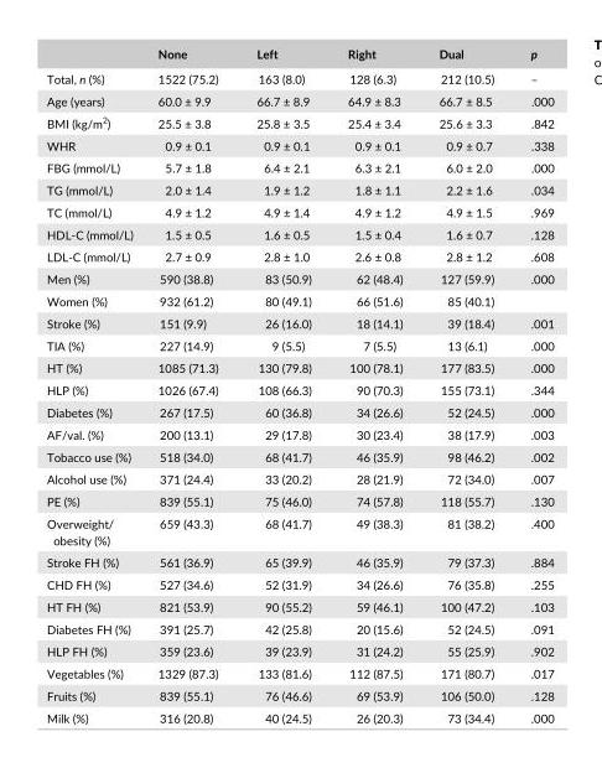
<table><thead><tr><td></td><td>None</td><td>Left</td><td>Right</td><td>Dual</td><td>p</td></tr></thead><tbody><tr><td>Total, n (%)</td><td>1522 (75.2)</td><td>163 (8.0)</td><td>128 (6.3)</td><td>212 (10.5)</td><td>–</td></tr><tr><td>Age (years)</td><td>60.0 ± 9.9</td><td>66.7 ± 8.9</td><td>64.9 ± 8.3</td><td>66.7 ± 8.5</td><td>.000</td></tr><tr><td>BMI (kg/m<sup>2</sup>)</td><td>25.5 ± 3.8</td><td>25.8 ± 3.5</td><td>25.4 ± 3.4</td><td>25.6 ± 3.3</td><td>.842</td></tr><tr><td>WHR</td><td>0.9 ± 0.1</td><td>0.9 ± 0.1</td><td>0.9 ± 0.1</td><td>0.9 ± 0.7</td><td>.338</td></tr><tr><td>FBG (mmol/L)</td><td>5.7 ± 1.8</td><td>6.4 ± 2.1</td><td>6.3 ± 2.1</td><td>6.0 ± 2.0</td><td>.000</td></tr><tr><td>TG (mmol/L)</td><td>2.0 ± 1.4</td><td>1.9 ± 1.2</td><td>1.8 ± 1.1</td><td>2.2 ± 1.6</td><td>.034</td></tr><tr><td>TC (mmol/L)</td><td>4.9 ± 1.2</td><td>4.9 ± 1.4</td><td>4.9 ± 1.2</td><td>4.9 ± 1.5</td><td>.969</td></tr><tr><td>HDL- C (mmol/L)</td><td>1.5 ± 0.5</td><td>1.6 ± 0.5</td><td>1.5 ± 0.4</td><td>1.6 ± 0.7</td><td>.128</td></tr><tr><td>LDL- C (mmol/L)</td><td>2.7 ± 0.9</td><td>2.8 ± 1.0</td><td>2.6 ± 0.8</td><td>2.8 ± 1.2</td><td>.608</td></tr><tr><td>Men (%)</td><td>590 (38.8)</td><td>83 (50.9)</td><td>62 (48.4)</td><td>127 (59.9)</td><td>.000</td></tr><tr><td>Women (%)</td><td>932 (61.2)</td><td>80 (49.1)</td><td>66 (51.6)</td><td>85 (40.1)</td><td></td></tr><tr><td>Stroke (%)</td><td>151 (9.9)</td><td>26 (16.0)</td><td>18 (14.1)</td><td>39 (18.4)</td><td>.001</td></tr><tr><td>TIA (%)</td><td>227 (14.9)</td><td>9 (5.5)</td><td>7 (5.5)</td><td>13 (6.1)</td><td>.000</td></tr><tr><td>HT (%)</td><td>1085 (71.3)</td><td>130 (79.8)</td><td>100 (78.1)</td><td>177 (83.5)</td><td>.000</td></tr><tr><td>HLP (%)</td><td>1026 (67.4)</td><td>108 (66.3)</td><td>90 (70.3)</td><td>155 (73.1)</td><td>.344</td></tr><tr><td>Diabetes (%)</td><td>267 (17.5)</td><td>60 (36.8)</td><td>34 (26.6)</td><td>52 (24.5)</td><td>.000</td></tr><tr><td>AF/val. (%)</td><td>200 (13.1)</td><td>29 (17.8)</td><td>30 (23.4)</td><td>38 (17.9)</td><td>.003</td></tr><tr><td>Tobacco use (%)</td><td>518 (34.0)</td><td>68 (41.7)</td><td>46 (35.9)</td><td>98 (46.2)</td><td>.002</td></tr><tr><td>Alcohol use (%)</td><td>371 (24.4)</td><td>33 (20.2)</td><td>28 (21.9)</td><td>72 (34.0)</td><td>.007</td></tr><tr><td>PE (%)</td><td>839 (55.1)</td><td>75 (46.0)</td><td>74 (57.8)</td><td>118 (55.7)</td><td>.130</td></tr><tr><td>Overweight/ obesity (%)</td><td>659 (43.3)</td><td>68 (41.7)</td><td>49 (38.3)</td><td>81 (38.2)</td><td>.400</td></tr><tr><td>Stroke FH (%)</td><td>561 (36.9)</td><td>65 (39.9)</td><td>46 (35.9)</td><td>79 (37.3)</td><td>.884</td></tr><tr><td>CHD FH (%)</td><td>527 (34.6)</td><td>52 (31.9)</td><td>34 (26.6)</td><td>76 (35.8)</td><td>.255</td></tr><tr><td>HT FH (%)</td><td>821 (53.9)</td><td>90 (55.2)</td><td>59 (46.1)</td><td>100 (47.2)</td><td>.103</td></tr><tr><td>Diabetes FH (%)</td><td>391 (25.7)</td><td>42 (25.8)</td><td>20 (15.6)</td><td>52 (24.5)</td><td>.091</td></tr><tr><td>HLP FH (%)</td><td>359 (23.6)</td><td>39 (23.9)</td><td>31 (24.2)</td><td>55 (25.9)</td><td>.902</td></tr><tr><td>Vegetables (%)</td><td>1329 (87.3)</td><td>133 (81.6)</td><td>112 (87.5)</td><td>171 (80.7)</td><td>.017</td></tr><tr><td>Fruits (%)</td><td>839 (55.1)</td><td>76 (46.6)</td><td>69 (53.9)</td><td>106 (50.0)</td><td>.128</td></tr><tr><td>Milk (%)</td><td>316 (20.8)</td><td>40 (24.5)</td><td>26 (20.3)</td><td>73 (34.4)</td><td>.000</td></tr></tbody></table>